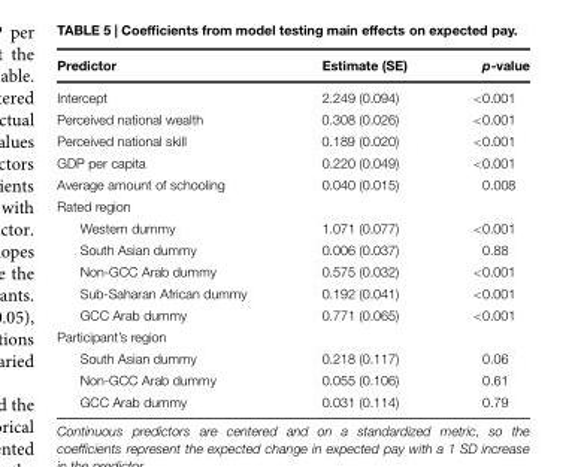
<table><thead><tr><td>Predictor</td><td>Estimate (SE)</td><td>p-value</td></tr></thead><tbody><tr><td>Intercept</td><td>2.249 (0.094)</td><td>&lt;0.001</td></tr><tr><td>Perceived national wealth</td><td>0.308 (0.026)</td><td>&lt;0.001</td></tr><tr><td>Perceived national skill</td><td>0.189 (0.020)</td><td>&lt;0.001</td></tr><tr><td>GDP per capita</td><td>0.220 (0.049)</td><td>&lt;0.001</td></tr><tr><td>Average amount of schooling</td><td>0.040 (0.015)</td><td>0.008</td></tr><tr><td colspan="3">Rated region</td></tr><tr><td>Western dummy</td><td>1.071 (0.077)</td><td>&lt;0.001</td></tr><tr><td>South Asian dummy</td><td>0.006 (0.037)</td><td>0.88</td></tr><tr><td>Non-GCC Arab dummy</td><td>0.575 (0.032)</td><td>&lt;0.001</td></tr><tr><td>Sub-Saharan African dummy</td><td>0.192 (0.041)</td><td>&lt;0.001</td></tr><tr><td>GCC Arab dummy</td><td>0.771 (0.065)</td><td>&lt;0.001</td></tr><tr><td colspan="3">Participant’s region</td></tr><tr><td>South Asian dummy</td><td>0.218 (0.117)</td><td>0.06</td></tr><tr><td>Non-GCC Arab dummy</td><td>0.055 (0.106)</td><td>0.61</td></tr><tr><td>GCC Arab dummy</td><td>0.031 (0.114)</td><td>0.79</td></tr></tbody></table>